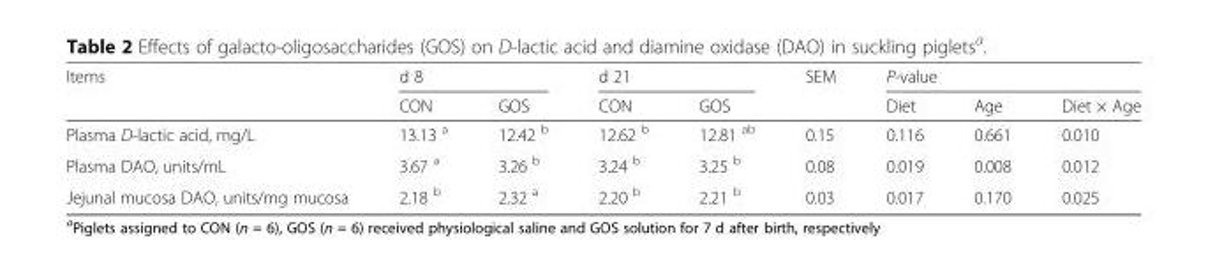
<table><thead><tr><td rowspan="2">Items</td><td colspan="2">d 8</td><td colspan="2">d 21</td><td rowspan="2">SEM</td><td colspan="3">P-value</td></tr><tr><td>CON</td><td>GOS</td><td>CON</td><td>GOS</td><td>Diet</td><td>Age</td><td>Diet × Age</td></tr></thead><tbody><tr><td>Plasma D-lactic acid, mg/L</td><td>13.13 <sup>a</sup></td><td>12.42 <sup>b</sup></td><td>12.62 <sup>b</sup></td><td>12.81 <sup>ab</sup></td><td>0.15</td><td>0.116</td><td>0.661</td><td>0.010</td></tr><tr><td>Plasma DAO, units/mL</td><td>3.67 <sup>a</sup></td><td>3.26 <sup>b</sup></td><td>3.24 <sup>b</sup></td><td>3.25 <sup>b</sup></td><td>0.08</td><td>0.019</td><td>0.008</td><td>0.012</td></tr><tr><td>Jejunal mucosa DAO, units/mg mucosa</td><td>2.18 <sup>b</sup></td><td>2.32 <sup>a</sup></td><td>2.20 <sup>b</sup></td><td>2.21 <sup>b</sup></td><td>0.03</td><td>0.017</td><td>0.170</td><td>0.025</td></tr></tbody></table>